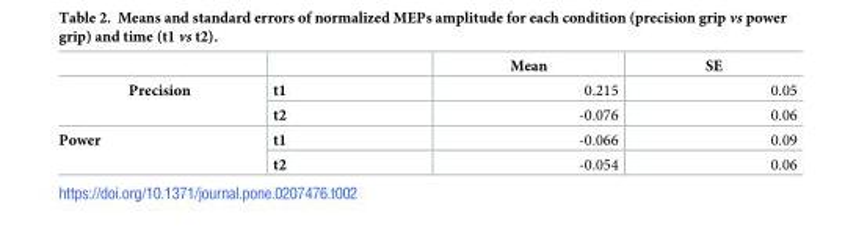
<table><thead><tr><td></td><td></td><td>Mean</td><td>SE</td></tr></thead><tbody><tr><td rowspan="2">Precision</td><td>t1</td><td>0.215</td><td>0.05</td></tr><tr><td>t2</td><td>-0.076</td><td>0.06</td></tr><tr><td rowspan="2">Power</td><td>t1</td><td>-0.066</td><td>0.09</td></tr><tr><td>t2</td><td>-0.054</td><td>0.06</td></tr></tbody></table>